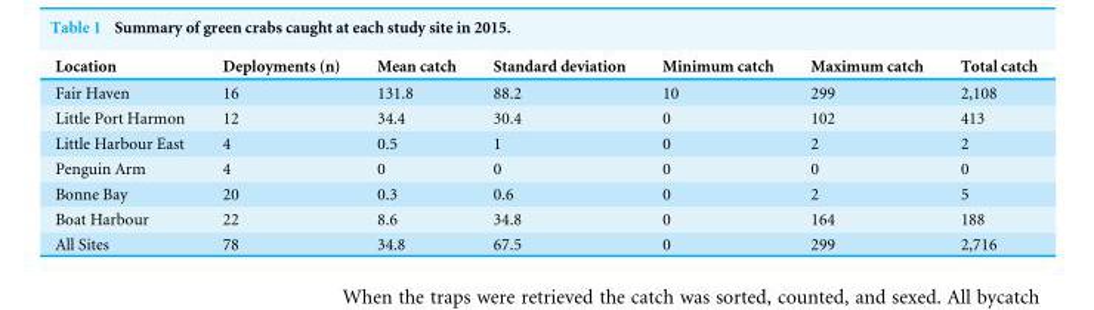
<table><thead><tr><td>Location</td><td>Deployments (n)</td><td>Mean catch</td><td>Standard deviation</td><td>Minimum catch</td><td>Maximum catch</td><td>Total catch</td></tr></thead><tbody><tr><td>Fair Haven</td><td>16</td><td>131.8</td><td>88.2</td><td>10</td><td>299</td><td>2,108</td></tr><tr><td>Little Port Harmon</td><td>12</td><td>34.4</td><td>30.4</td><td>0</td><td>102</td><td>413</td></tr><tr><td>Little Harbour East</td><td>4</td><td>0.5</td><td>1</td><td>0</td><td>2</td><td>2</td></tr><tr><td>Penguin Arm</td><td>4</td><td>0</td><td>0</td><td>0</td><td>0</td><td>0</td></tr><tr><td>Bonne Bay</td><td>20</td><td>0.3</td><td>0.6</td><td>0</td><td>2</td><td>5</td></tr><tr><td>Boat Harbour</td><td>22</td><td>8.6</td><td>34.8</td><td>0</td><td>164</td><td>188</td></tr><tr><td>All Sites</td><td>78</td><td>34.8</td><td>67.5</td><td>0</td><td>299</td><td>2,716</td></tr></tbody></table>